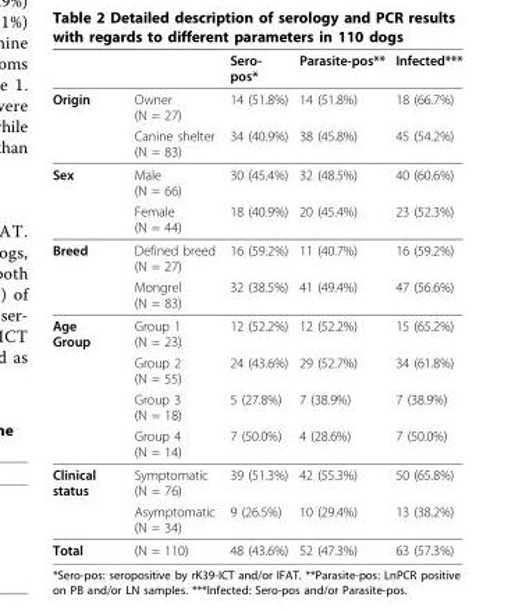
<table><thead><tr><td></td><td></td><td>Sero- pos*</td><td>Parasite-pos**</td><td>Infected***</td></tr></thead><tbody><tr><td rowspan="2">Origin</td><td>Owner (N = 27)</td><td>14 (51.8%)</td><td>14 (51.8%)</td><td>18 (66.7%)</td></tr><tr><td>Canine shelter (N = 83)</td><td>34 (40.9%)</td><td>38 (45.8%)</td><td>45 (54.2%)</td></tr><tr><td rowspan="2">Sex</td><td>Male (N = 66)</td><td>30 (45.4%)</td><td>32 (48.5%)</td><td>40 (60.6%)</td></tr><tr><td>Female (N = 44)</td><td>18 (40.9%)</td><td>20 (45.4%)</td><td>23 (52.3%)</td></tr><tr><td rowspan="2">Breed</td><td>Defined breed (N = 27)</td><td>16 (59.2%)</td><td>11 (40.7%)</td><td>16 (59.2%)</td></tr><tr><td>Mongrel (N = 83)</td><td>32 (38.5%)</td><td>41 (49.4%)</td><td>47 (56.6%)</td></tr><tr><td rowspan="4">Age Group</td><td>Group 1 (N = 23)</td><td>12 (52.2%)</td><td>12 (52.2%)</td><td>15 (65.2%)</td></tr><tr><td>Group 2 (N = 55)</td><td>24 (43.6%)</td><td>29 (52.7%)</td><td>34 (61.8%)</td></tr><tr><td>Group 3 (N = 18)</td><td>5 (27.8%)</td><td>7 (38.9%)</td><td>7 (38.9%)</td></tr><tr><td>Group 4 (N = 14)</td><td>7 (50.0%)</td><td>4 (28.6%)</td><td>7 (50.0%)</td></tr><tr><td rowspan="2">Clinical status</td><td>Symptomatic (N = 76)</td><td>39 (51.3%)</td><td>42 (55.3%)</td><td>50 (65.8%)</td></tr><tr><td>Asymptomatic (N = 34)</td><td>9 (26.5%)</td><td>10 (29.4%)</td><td>13 (38.2%)</td></tr><tr><td>Total</td><td>(N = 110)</td><td>48 (43.6%)</td><td>52 (47.3%)</td><td>63 (57.3%)</td></tr></tbody></table>